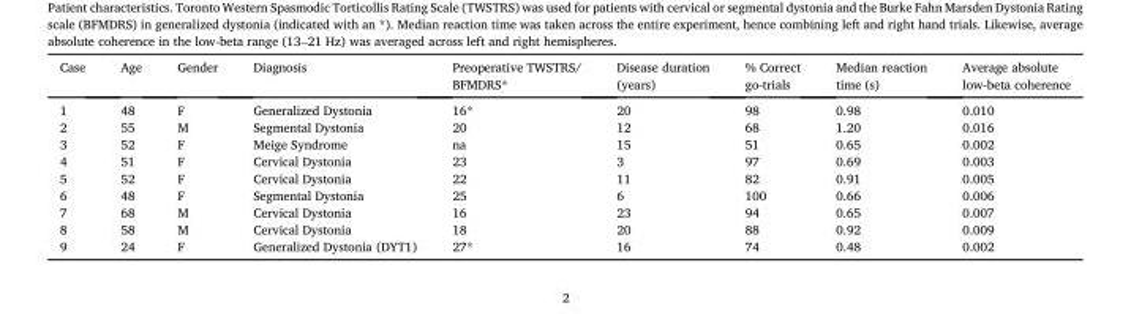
<table><thead><tr><td>Case</td><td>Age</td><td>Gender</td><td>Diagnosis</td><td>Preoperative TWSTRS/ BFMDRS*</td><td>Disease duration (years)</td><td>% Correct go-trials</td><td>Median reaction time (s)</td><td>Average absolute low-beta coherence</td></tr></thead><tbody><tr><td>1</td><td>48</td><td>F</td><td>Generalized Dystonia</td><td>16*</td><td>20</td><td>98</td><td>0.98</td><td>0.010</td></tr><tr><td>2</td><td>55</td><td>M</td><td>Segmental Dystonia</td><td>20</td><td>12</td><td>68</td><td>1.20</td><td>0.016</td></tr><tr><td>3</td><td>52</td><td>F</td><td>Meige Syndrome</td><td>na</td><td>15</td><td>51</td><td>0.65</td><td>0.002</td></tr><tr><td>4</td><td>51</td><td>F</td><td>Cervical Dystonia</td><td>23</td><td>3</td><td>97</td><td>0.69</td><td>0.003</td></tr><tr><td>5</td><td>52</td><td>F</td><td>Cervical Dystonia</td><td>22</td><td>11</td><td>82</td><td>0.91</td><td>0.005</td></tr><tr><td>6</td><td>48</td><td>F</td><td>Segmental Dystonia</td><td>25</td><td>6</td><td>100</td><td>0.66</td><td>0.006</td></tr><tr><td>7</td><td>68</td><td>M</td><td>Cervical Dystonia</td><td>16</td><td>23</td><td>94</td><td>0.65</td><td>0.007</td></tr><tr><td>8</td><td>58</td><td>M</td><td>Cervical Dystonia</td><td>18</td><td>20</td><td>88</td><td>0.92</td><td>0.009</td></tr><tr><td>9</td><td>24</td><td>F</td><td>Generalized Dystonia (DYT1)</td><td>27*</td><td>16</td><td>74</td><td>0.48</td><td>0.002</td></tr></tbody></table>